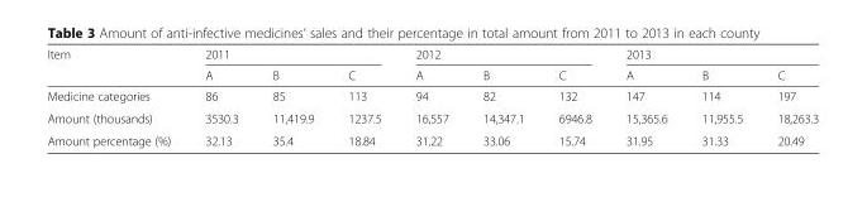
<table><thead><tr><td rowspan="2">Item</td><td colspan="3">2011</td><td colspan="3">2012</td><td colspan="3">2013</td></tr><tr><td>A</td><td>B</td><td>C</td><td>A</td><td>B</td><td>C</td><td>A</td><td>B</td><td>C</td></tr></thead><tbody><tr><td>Medicine categories</td><td>86</td><td>85</td><td>113</td><td>94</td><td>82</td><td>132</td><td>147</td><td>114</td><td>197</td></tr><tr><td>Amount (thousands)</td><td>3530.3</td><td>11,419.9</td><td>1237.5</td><td>16,557</td><td>14,347.1</td><td>6946.8</td><td>15,365.6</td><td>11,955.5</td><td>18,263.3</td></tr><tr><td>Amount percentage (%)</td><td>32.13</td><td>35.4</td><td>18.84</td><td>31.22</td><td>33.06</td><td>15.74</td><td>31.95</td><td>31.33</td><td>20.49</td></tr></tbody></table>